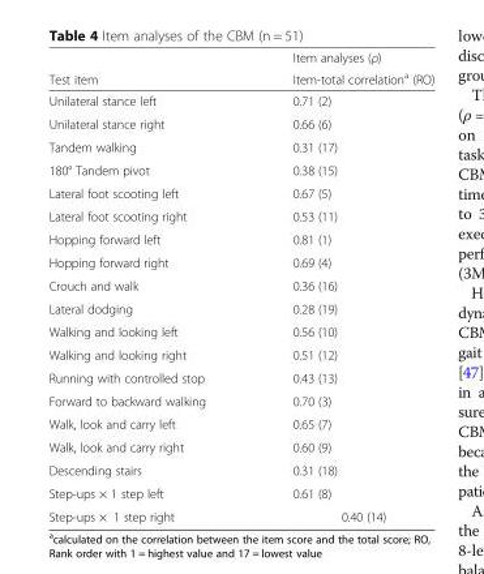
<table><thead><tr><td rowspan="2">Test item</td><td rowspan="2">Item analyses (ρ) Item-total correlation<sup>a</sup> (RO)</td></tr><tr></tr></thead><tbody><tr><td>Unilateral stance left</td><td>0.71 (2)</td></tr><tr><td>Unilateral stance right</td><td>0.66 (6)</td></tr><tr><td>Tandem walking</td><td>0.31 (17)</td></tr><tr><td>180° Tandem pivot</td><td>0.38 (15)</td></tr><tr><td>Lateral foot scooting left</td><td>0.67 (5)</td></tr><tr><td>Lateral foot scooting right</td><td>0.53 (11)</td></tr><tr><td>Hopping forward left</td><td>0.81 (1)</td></tr><tr><td>Hopping forward right</td><td>0.69 (4)</td></tr><tr><td>Crouch and walk</td><td>0.36 (16)</td></tr><tr><td>Lateral dodging</td><td>0.28 (19)</td></tr><tr><td>Walking and looking left</td><td>0.56 (10)</td></tr><tr><td>Walking and looking right</td><td>0.51 (12)</td></tr><tr><td>Running with controlled stop</td><td>0.43 (13)</td></tr><tr><td>Forward to backward walking</td><td>0.70 (3)</td></tr><tr><td>Walk, look and carry left</td><td>0.65 (7)</td></tr><tr><td>Walk, look and carry right</td><td>0.60 (9)</td></tr><tr><td>Descending stairs</td><td>0.31 (18)</td></tr><tr><td>Step-ups × 1 step left</td><td>0.61 (8)</td></tr><tr><td>Step-ups × 1 step right</td><td>0.40 (14)</td></tr></tbody></table>